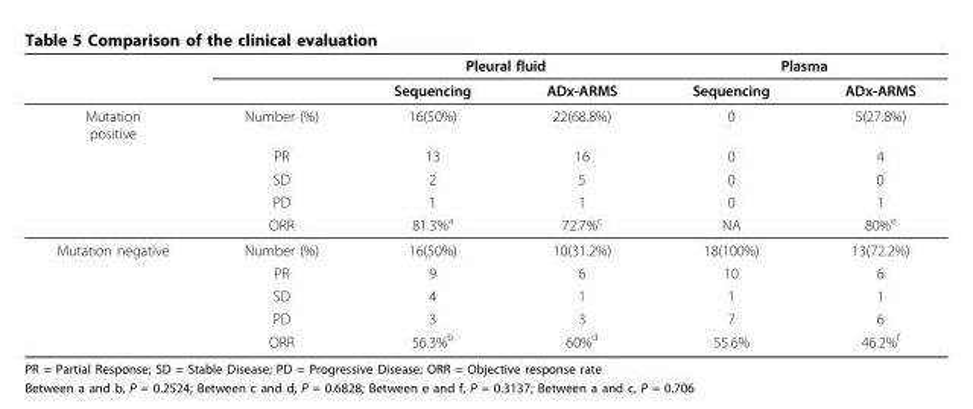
<table><thead><tr><td rowspan="2"></td><td rowspan="2"></td><td colspan="2">Pleural fluid</td><td colspan="2">Plasma</td></tr><tr><td>Sequencing</td><td>ADx-ARMS</td><td>Sequencing</td><td>ADx-ARMS</td></tr></thead><tbody><tr><td rowspan="5">Mutation positive</td><td>Number (%)</td><td>16(50%)</td><td>22(68.8%)</td><td>0</td><td>5(27.8%)</td></tr><tr><td>PR</td><td>13</td><td>16</td><td>0</td><td>4</td></tr><tr><td>SD</td><td>2</td><td>5</td><td>0</td><td>0</td></tr><tr><td>PD</td><td>1</td><td>1</td><td>0</td><td>1</td></tr><tr><td>ORR</td><td>81.3%<sup>a</sup></td><td>72.7%<sup>c</sup></td><td>NA</td><td>80%<sup>e</sup></td></tr><tr><td rowspan="5">Mutation negative</td><td>Number (%)</td><td>16(50%)</td><td>10(31.2%)</td><td>18(100%)</td><td>13(72.2%)</td></tr><tr><td>PR</td><td>9</td><td>6</td><td>10</td><td>6</td></tr><tr><td>SD</td><td>4</td><td>1</td><td>1</td><td>1</td></tr><tr><td>PD</td><td>3</td><td>3</td><td>7</td><td>6</td></tr><tr><td>ORR</td><td>56.3%<sup>b</sup></td><td>60%<sup>d</sup></td><td>55.6%</td><td>46.2%<sup>f</sup></td></tr></tbody></table>